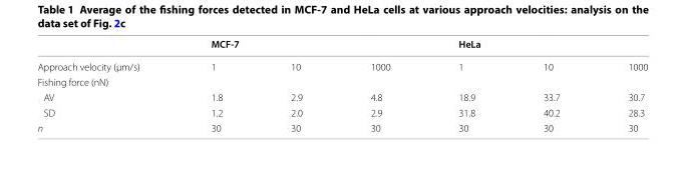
<table><thead><tr><td rowspan="2">Approach velocity (µm/s)</td><td colspan="3">MCF-7</td><td colspan="3">HeLa</td></tr><tr><td>1</td><td>10</td><td>1000</td><td>1</td><td>10</td><td>1000</td></tr></thead><tbody><tr><td colspan="7">Fishing force (nN)</td></tr><tr><td>AV</td><td>1.8</td><td>2.9</td><td>4.8</td><td>18.9</td><td>33.7</td><td>30.7</td></tr><tr><td>SD</td><td>1.2</td><td>2.0</td><td>2.9</td><td>31.8</td><td>40.2</td><td>28.3</td></tr><tr><td>n</td><td>30</td><td>30</td><td>30</td><td>30</td><td>30</td><td>30</td></tr></tbody></table>